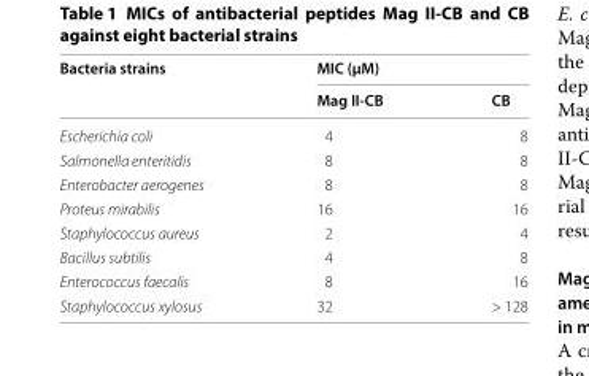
<table><thead><tr><td rowspan="2">Bacteria strains</td><td colspan="2">MIC (µM)</td></tr><tr><td>Mag II‑CB</td><td>CB</td></tr></thead><tbody><tr><td>Escherichia coli</td><td>4</td><td>8</td></tr><tr><td>Salmonella enteritidis</td><td>8</td><td>8</td></tr><tr><td>Enterobacter aerogenes</td><td>8</td><td>8</td></tr><tr><td>Proteus mirabilis</td><td>16</td><td>16</td></tr><tr><td>Staphylococcus aureus</td><td>2</td><td>4</td></tr><tr><td>Bacillus subtilis</td><td>4</td><td>8</td></tr><tr><td>Enterococcus faecalis</td><td>8</td><td>16</td></tr><tr><td>Staphylococcus xylosus</td><td>32</td><td>&gt; 128</td></tr></tbody></table>